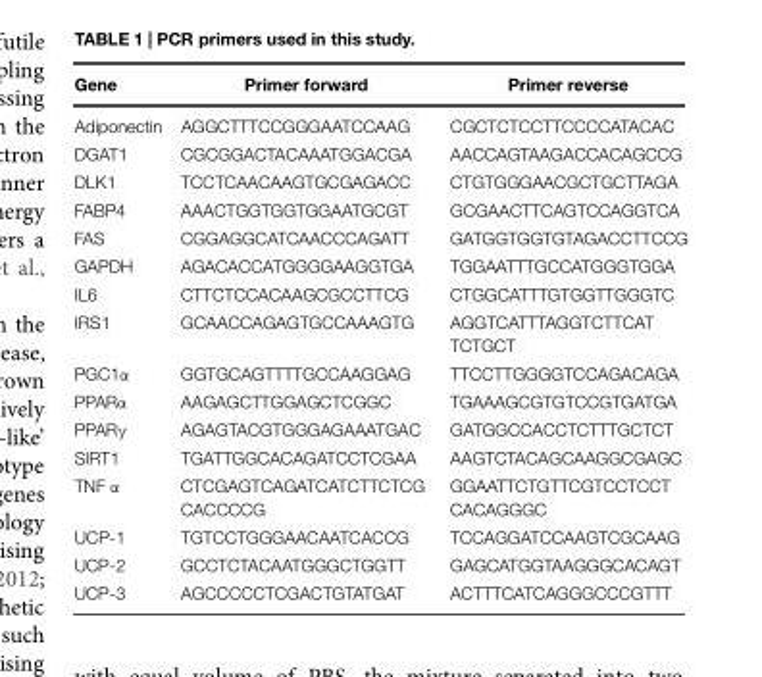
<table><thead><tr><td>Gene</td><td>Primer forward</td><td>Primer reverse</td></tr></thead><tbody><tr><td>Adiponectin</td><td>AGGCTTTCCGGGAATCCAAG</td><td>CGCTCTCCTTCCCCATACAC</td></tr><tr><td>DGAT1</td><td>CGCGGACTACAAATGGACGA</td><td>AACCAGTAAGACCACAGCCG</td></tr><tr><td>DLK1</td><td>TCCTCAACAAGTGCGAGACC</td><td>CTGTGGGAACGCTGCTTAGA</td></tr><tr><td>FABP4</td><td>AAACTGGTGGTGGAATGCGT</td><td>GCGAACTTCAGTCCAGGTCA</td></tr><tr><td>FAS</td><td>CGGAGGCATCAACCCAGATT</td><td>GATGGTGGTGTAGACCTTCCG</td></tr><tr><td>GAPDH</td><td>AGACACCATGGGGAAGGTGA</td><td>TGGAATTTGCCATGGGTGGA</td></tr><tr><td>IL6</td><td>CTTCTCCACAAGCGCCTTCG</td><td>CTGGCATTTGTGGTTGGGTC</td></tr><tr><td>IRS1</td><td>GCAACCAGAGTGCCAAAGTG</td><td>AGGTCATTTAGGTCTTCAT TCTGCT</td></tr><tr><td>PGC1α</td><td>GGTGCAGTTTTGCCAAGGAG</td><td>TTCCTTGGGGTCCAGACAGA</td></tr><tr><td>PPARα</td><td>AAGAGCTTGGAGCTCGGC</td><td>TGAAAGCGTGTCCGTGATGA</td></tr><tr><td>PPARγ</td><td>AGAGTACGTGGGAGAAATGAC</td><td>GATGGCCACCTCTTTGCTCT</td></tr><tr><td>SIRT1</td><td>TGATTGGCACAGATCCTCGAA</td><td>AAGTCTACAGCAAGGCGAGC</td></tr><tr><td>TNF α</td><td>CTCGAGTCAGATCATCTTCTCG CACCCCG</td><td>GGAATTCTGTTCGTCCTCCT CACAGGGC</td></tr><tr><td>UCP-1</td><td>TGTCCTGGGAACAATCACCG</td><td>TCCAGGATCCAAGTCGCAAG</td></tr><tr><td>UCP-2</td><td>GCCTCTACAATGGGCTGGTT</td><td>GAGCATGGTAAGGGCACAGT</td></tr><tr><td>UCP-3</td><td>AGCCCCCTCGACTGTATGAT</td><td>ACTTTCATCAGGGCCCGTTT</td></tr></tbody></table>